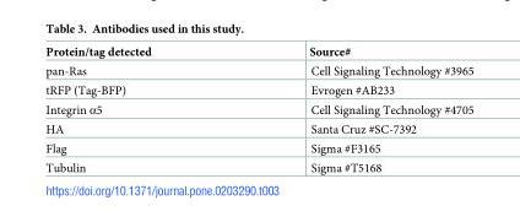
<table><thead><tr><td>Protein/tag detected</td><td>Source#</td></tr></thead><tbody><tr><td>pan-Ras</td><td>Cell Signaling Technology #3965</td></tr><tr><td>tRFP (Tag-BFP)</td><td>Evrogen #AB233</td></tr><tr><td>Integrin α5</td><td>Cell Signaling Technology #4705</td></tr><tr><td>HA</td><td>Santa Cruz #SC-7392</td></tr><tr><td>Flag</td><td>Sigma #F3165</td></tr><tr><td>Tubulin</td><td>Sigma #T5168</td></tr></tbody></table>